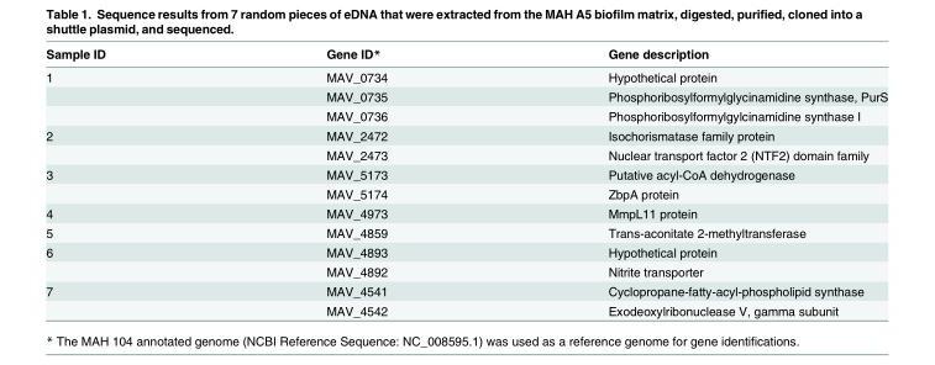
<table><thead><tr><td>Sample ID</td><td>Gene ID*</td><td>Gene description</td></tr></thead><tbody><tr><td rowspan="3">1</td><td>MAV_0734</td><td>Hypothetical protein</td></tr><tr><td>MAV_0735</td><td>Phosphoribosylformylglycinamidine synthase, PurS</td></tr><tr><td>MAV_0736</td><td>Phosphoribosylformylgylcinamidine synthase I</td></tr><tr><td rowspan="2">2</td><td>MAV_2472</td><td>Isochorismatase family protein</td></tr><tr><td>MAV_2473</td><td>Nuclear transport factor 2 (NTF2) domain family</td></tr><tr><td rowspan="2">3</td><td>MAV_5173</td><td>Putative acyl-CoA dehydrogenase</td></tr><tr><td>MAV_5174</td><td>ZbpA protein</td></tr><tr><td>4</td><td>MAV_4973</td><td>MmpL11 protein</td></tr><tr><td>5</td><td>MAV_4859</td><td>Trans-aconitate 2-methyltransferase</td></tr><tr><td rowspan="2">6</td><td>MAV_4893</td><td>Hypothetical protein</td></tr><tr><td>MAV_4892</td><td>Nitrite transporter</td></tr><tr><td rowspan="2">7</td><td>MAV_4541</td><td>Cyclopropane-fatty-acyl-phospholipid synthase</td></tr><tr><td>MAV_4542</td><td>Exodeoxylribonuclease V, gamma subunit</td></tr></tbody></table>